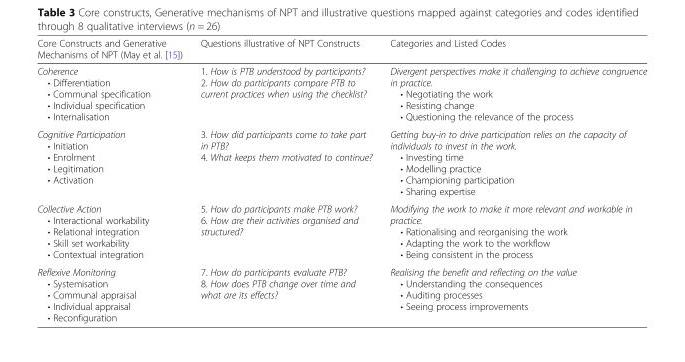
<table><thead><tr><td>Core Constructs and Generative Mechanisms of NPT (May et al. [15])</td><td>Questions illustrative of NPT Constructs</td><td>Categories and Listed Codes</td></tr></thead><tbody><tr><td>Coherence • Differentiation • Communal specification • Individual specification • Internalisation</td><td>1. How is PTB understood by participants? 2. How do participants compare PTB to current practices when using the checklist?</td><td>Divergent perspectives make it challenging to achieve congruence in practice. • Negotiating the work • Resisting change • Questioning the relevance of the process</td></tr><tr><td>Cognitive Participation • Initiation • Enrolment • Legitimation • Activation</td><td>3. How did participants come to take part in PTB? 4. What keeps them motivated to continue?</td><td>Getting buy-in to drive participation relies on the capacity of individuals to invest in the work. • Investing time • Modelling practice • Championing participation • Sharing expertise</td></tr><tr><td>Collective Action • Interactional workability • Relational integration • Skill set workability • Contextual integration</td><td>5. How do participants make PTB work? 6. How are their activities organised and structured?</td><td>Modifying the work to make it more relevant and workable in practice. • Rationalising and reorganising the work • Adapting the work to the workflow • Being consistent in the process</td></tr><tr><td>Reflexive Monitoring • Systemisation • Communal appraisal • Individual appraisal • Reconfiguration</td><td>7. How do participants evaluate PTB? 8. How does PTB change over time and what are its effects?</td><td>Realising the benefit and reflecting on the value • Understanding the consequences • Auditing processes • Seeing process improvements</td></tr></tbody></table>